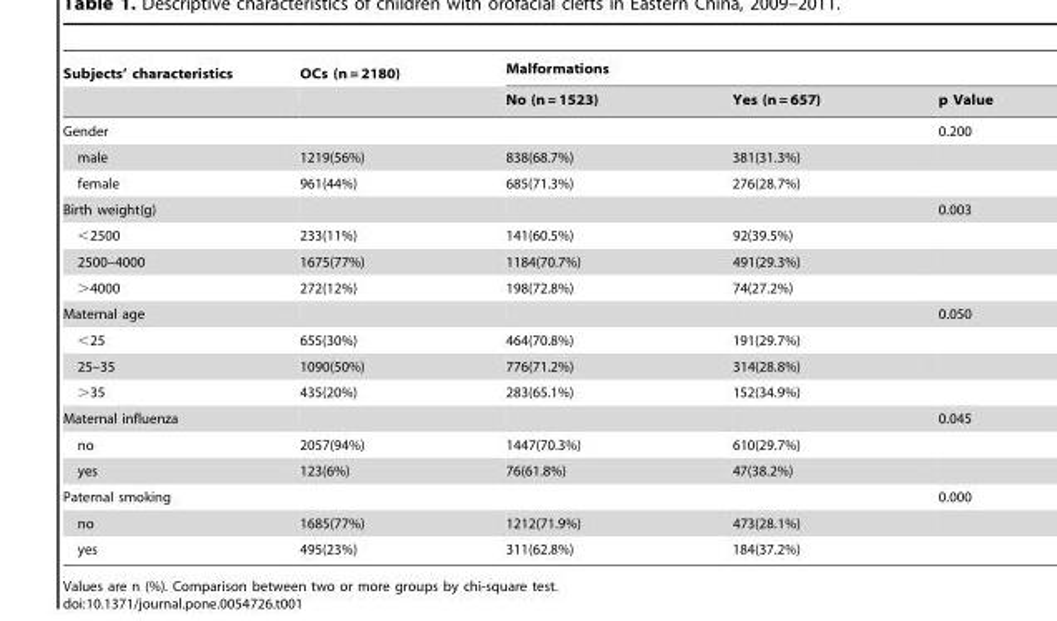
<table><thead><tr><td rowspan="2">Subjects’ characteristics</td><td rowspan="2">OCs (n = 2180)</td><td colspan="3">Malformations</td></tr><tr><td>No (n = 1523)</td><td>Yes (n = 657)</td><td>p Value</td></tr></thead><tbody><tr><td>Gender</td><td></td><td></td><td></td><td>0.200</td></tr><tr><td>male</td><td>1219(56%)</td><td>838(68.7%)</td><td>381(31.3%)</td><td></td></tr><tr><td>female</td><td>961(44%)</td><td>685(71.3%)</td><td>276(28.7%)</td><td></td></tr><tr><td>Birth weight(g)</td><td></td><td></td><td></td><td>0.003</td></tr><tr><td>&lt;2500</td><td>233(11%)</td><td>141(60.5%)</td><td>92(39.5%)</td><td></td></tr><tr><td>2500–4000</td><td>1675(77%)</td><td>1184(70.7%)</td><td>491(29.3%)</td><td></td></tr><tr><td>&gt;4000</td><td>272(12%)</td><td>198(72.8%)</td><td>74(27.2%)</td><td></td></tr><tr><td>Maternal age</td><td></td><td></td><td></td><td>0.050</td></tr><tr><td>&lt;25</td><td>655(30%)</td><td>464(70.8%)</td><td>191(29.7%)</td><td></td></tr><tr><td>25–35</td><td>1090(50%)</td><td>776(71.2%)</td><td>314(28.8%)</td><td></td></tr><tr><td>&gt;35</td><td>435(20%)</td><td>283(65.1%)</td><td>152(34.9%)</td><td></td></tr><tr><td>Maternal influenza</td><td></td><td></td><td></td><td>0.045</td></tr><tr><td>no</td><td>2057(94%)</td><td>1447(70.3%)</td><td>610(29.7%)</td><td></td></tr><tr><td>yes</td><td>123(6%)</td><td>76(61.8%)</td><td>47(38.2%)</td><td></td></tr><tr><td>Paternal smoking</td><td></td><td></td><td></td><td>0.000</td></tr><tr><td>no</td><td>1685(77%)</td><td>1212(71.9%)</td><td>473(28.1%)</td><td></td></tr><tr><td>yes</td><td>495(23%)</td><td>311(62.8%)</td><td>184(37.2%)</td><td></td></tr></tbody></table>